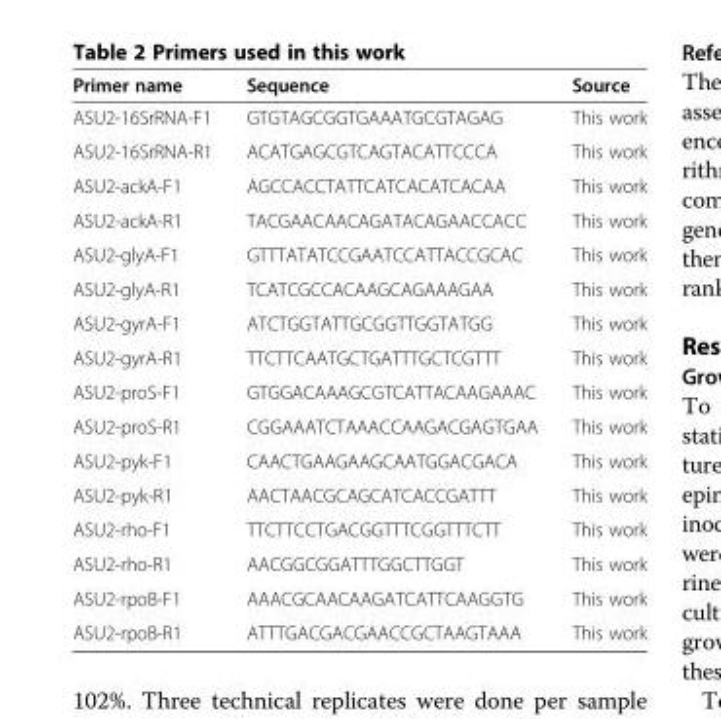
<table><thead><tr><td>Primer name</td><td>Sequence</td><td>Source</td></tr></thead><tbody><tr><td>ASU2-16SrRNA-F1</td><td>GTGTAGCGGTGAAATGCGTAGAG</td><td>This work</td></tr><tr><td>ASU2-16SrRNA-R1</td><td>ACATGAGCGTCAGTACATTCCCA</td><td>This work</td></tr><tr><td>ASU2-ackA-F1</td><td>AGCCACCTATTCATCACATCACAA</td><td>This work</td></tr><tr><td>ASU2-ackA-R1</td><td>TACGAACAACAGATACAGAACCACC</td><td>This work</td></tr><tr><td>ASU2-glyA-F1</td><td>GTTTATATCCGAATCCATTACCGCAC</td><td>This work</td></tr><tr><td>ASU2-glyA-R1</td><td>TCATCGCCACAAGCAGAAAGAA</td><td>This work</td></tr><tr><td>ASU2-gyrA-F1</td><td>ATCTGGTATTGCGGTTGGTATGG</td><td>This work</td></tr><tr><td>ASU2-gyrA-R1</td><td>TTCTTCAATGCTGATTTGCTCGTTT</td><td>This work</td></tr><tr><td>ASU2-proS-F1</td><td>GTGGACAAAGCGTCATTACAAGAAAC</td><td>This work</td></tr><tr><td>ASU2-proS-R1</td><td>CGGAAATCTAAACCAAGACGAGTGAA</td><td>This work</td></tr><tr><td>ASU2-pyk-F1</td><td>CAACTGAAGAAGCAATGGACGACA</td><td>This work</td></tr><tr><td>ASU2-pyk-R1</td><td>AACTAACGCAGCATCACCGATTT</td><td>This work</td></tr><tr><td>ASU2-rho-F1</td><td>TTCTTCCTGACGGTTTCGGTTTCTT</td><td>This work</td></tr><tr><td>ASU2-rho-R1</td><td>AACGGCGGATTTGGCTTGGT</td><td>This work</td></tr><tr><td>ASU2-rpoB-F1</td><td>AAACGCAACAAGATCATTCAAGGTG</td><td>This work</td></tr><tr><td>ASU2-rpoB-R1</td><td>ATTTGACGACGAACCGCTAAGTAAA</td><td>This work</td></tr></tbody></table>